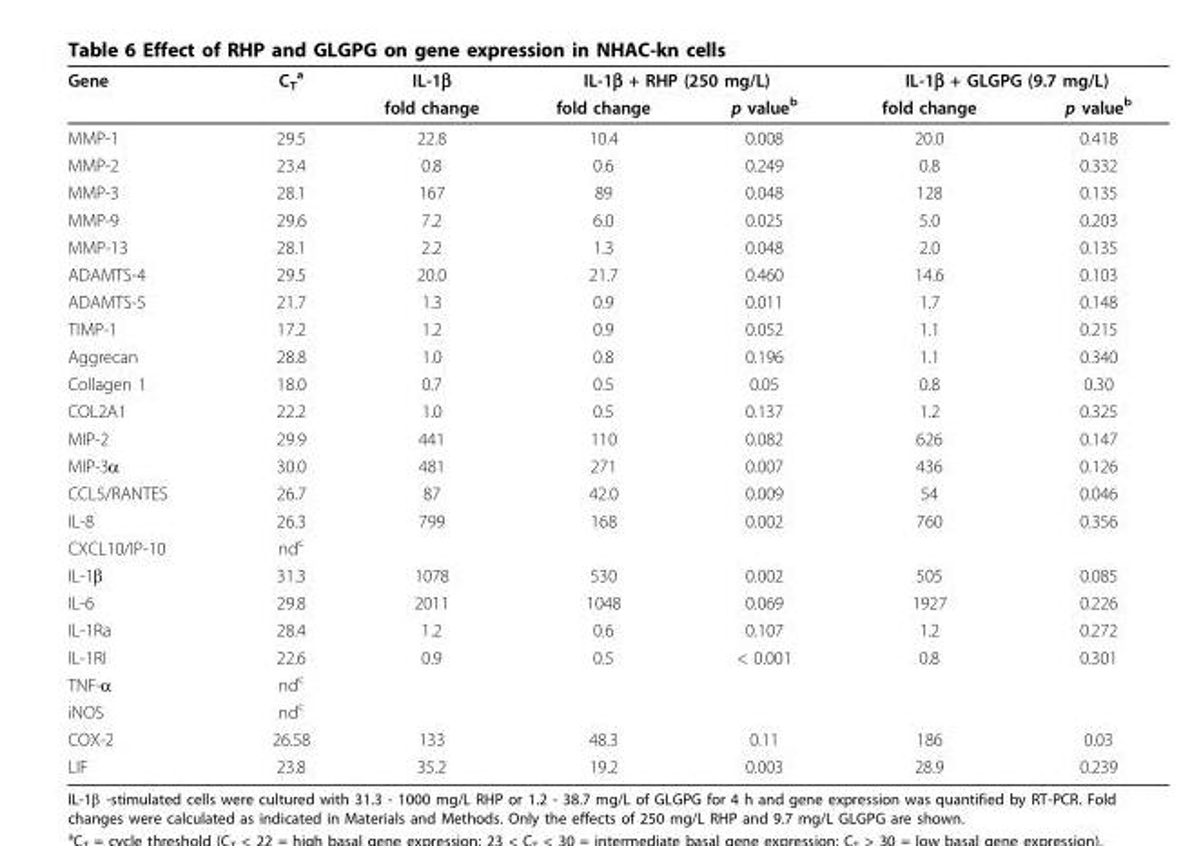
<table><thead><tr><td rowspan="2">Gene</td><td rowspan="2">C<sub>T</sub> <sup>a</sup></td><td rowspan="2">IL-1β fold change</td><td colspan="2">IL-1β + RHP (250 mg/L)</td><td colspan="2">IL-1β + GLGPG (9.7 mg/L)</td></tr><tr><td>fold change</td><td>p value<sup>b</sup></td><td>fold change</td><td>p value<sup>b</sup></td></tr></thead><tbody><tr><td>MMP-1</td><td>29.5</td><td>22.8</td><td>10.4</td><td>0.008</td><td>20.0</td><td>0.418</td></tr><tr><td>MMP-2</td><td>23.4</td><td>0.8</td><td>0.6</td><td>0.249</td><td>0.8</td><td>0.332</td></tr><tr><td>MMP-3</td><td>28.1</td><td>167</td><td>89</td><td>0.048</td><td>128</td><td>0.135</td></tr><tr><td>MMP-9</td><td>29.6</td><td>7.2</td><td>6.0</td><td>0.025</td><td>5.0</td><td>0.203</td></tr><tr><td>MMP-13</td><td>28.1</td><td>2.2</td><td>1.3</td><td>0.048</td><td>2.0</td><td>0.135</td></tr><tr><td>ADAMTS-4</td><td>29.5</td><td>20.0</td><td>21.7</td><td>0.460</td><td>14.6</td><td>0.103</td></tr><tr><td>ADAMTS-5</td><td>21.7</td><td>1.3</td><td>0.9</td><td>0.011</td><td>1.7</td><td>0.148</td></tr><tr><td>TIMP-1</td><td>17.2</td><td>1.2</td><td>0.9</td><td>0.052</td><td>1.1</td><td>0.215</td></tr><tr><td>Aggrecan</td><td>28.8</td><td>1.0</td><td>0.8</td><td>0.196</td><td>1.1</td><td>0.340</td></tr><tr><td>Collagen 1</td><td>18.0</td><td>0.7</td><td>0.5</td><td>0.05</td><td>0.8</td><td>0.30</td></tr><tr><td>COL2A1</td><td>22.2</td><td>1.0</td><td>0.5</td><td>0.137</td><td>1.2</td><td>0.325</td></tr><tr><td>MIP-2</td><td>29.9</td><td>441</td><td>110</td><td>0.082</td><td>626</td><td>0.147</td></tr><tr><td>MIP-3α</td><td>30.0</td><td>481</td><td>271</td><td>0.007</td><td>436</td><td>0.126</td></tr><tr><td>CCL5/RANTES</td><td>26.7</td><td>87</td><td>42.0</td><td>0.009</td><td>54</td><td>0.046</td></tr><tr><td>IL-8</td><td>26.3</td><td>799</td><td>168</td><td>0.002</td><td>760</td><td>0.356</td></tr><tr><td>CXCL10/IP-10</td><td>nd<sup>c</sup></td><td></td><td></td><td></td><td></td><td></td></tr><tr><td>IL-1β</td><td>31.3</td><td>1078</td><td>530</td><td>0.002</td><td>505</td><td>0.085</td></tr><tr><td>IL-6</td><td>29.8</td><td>2011</td><td>1048</td><td>0.069</td><td>1927</td><td>0.226</td></tr><tr><td>IL-1Ra</td><td>28.4</td><td>1.2</td><td>0.6</td><td>0.107</td><td>1.2</td><td>0.272</td></tr><tr><td>IL-1RI</td><td>22.6</td><td>0.9</td><td>0.5</td><td>&lt; 0.001</td><td>0.8</td><td>0.301</td></tr><tr><td>TNF-α</td><td>nd<sup>c</sup></td><td></td><td></td><td></td><td></td><td></td></tr><tr><td>iNOS</td><td>nd<sup>c</sup></td><td></td><td></td><td></td><td></td><td></td></tr><tr><td>COX-2</td><td>26.58</td><td>133</td><td>48.3</td><td>0.11</td><td>186</td><td>0.03</td></tr><tr><td>LIF</td><td>23.8</td><td>35.2</td><td>19.2</td><td>0.003</td><td>28.9</td><td>0.239</td></tr></tbody></table>